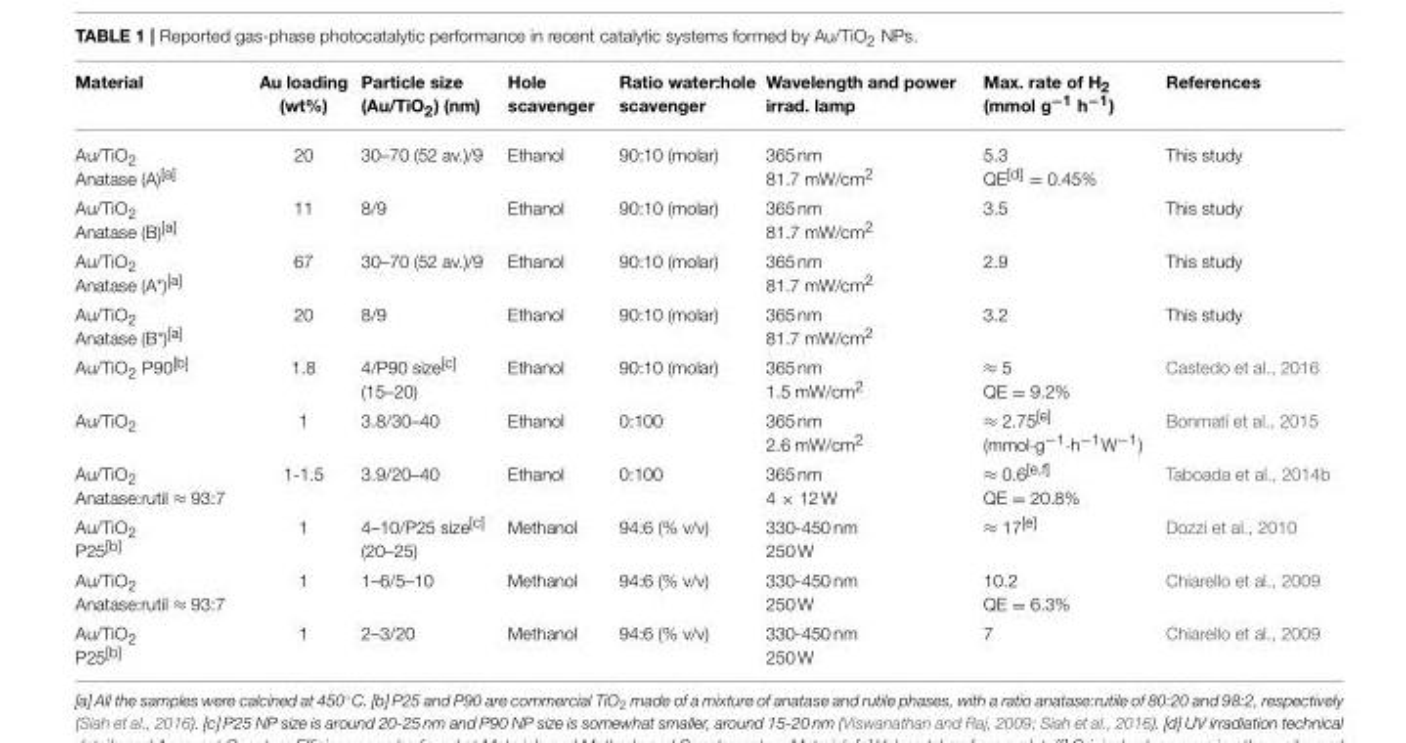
<table><thead><tr><td>Material</td><td>Au loading (wt%)</td><td>Particle size (Au/TiO<sub>2</sub>) (nm)</td><td>Hole scavenger</td><td>Ratio water:hole scavenger</td><td>Wavelength and power irrad. lamp</td><td>Max. rate of H<sub>2</sub> (mmol g<sup>−1</sup> h<sup>−1</sup>)</td><td>References</td></tr></thead><tbody><tr><td>Au/TiO<sub>2</sub> Anatase (A)<sup>[a]</sup></td><td>20</td><td>30–70 (52 av.)/9</td><td>Ethanol</td><td>90:10 (molar)</td><td>365 nm 81.7 mW/cm<sup>2</sup></td><td>5.3 QE<sup>[d]</sup> = 0.45%</td><td>This study</td></tr><tr><td>Au/TiO<sub>2</sub> Anatase (B)<sup>[a]</sup></td><td>11</td><td>8/9</td><td>Ethanol</td><td>90:10 (molar)</td><td>365 nm 81.7 mW/cm<sup>2</sup></td><td>3.5</td><td>This study</td></tr><tr><td>Au/TiO<sub>2</sub> Anatase (A*)<sup>[a]</sup></td><td>67</td><td>30–70 (52 av.)/9</td><td>Ethanol</td><td>90:10 (molar)</td><td>365 nm 81.7 mW/cm<sup>2</sup></td><td>2.9</td><td>This study</td></tr><tr><td>Au/TiO<sub>2</sub> Anatase (B*)<sup>[a]</sup></td><td>20</td><td>8/9</td><td>Ethanol</td><td>90:10 (molar)</td><td>365 nm 81.7 mW/cm<sup>2</sup></td><td>3.2</td><td>This study</td></tr><tr><td>Au/TiO<sub>2</sub> P90<sup>[b]</sup></td><td>1.8</td><td>4/P90 size<sup>[c]</sup> (15–20)</td><td>Ethanol</td><td>90:10 (molar)</td><td>365 nm 1.5 mW/cm<sup>2</sup></td><td>≈ 5 QE = 9.2%</td><td>Castedo et al., 2016</td></tr><tr><td>Au/TiO<sub>2</sub></td><td>1</td><td>3.8/30–40</td><td>Ethanol</td><td>0:100</td><td>365 nm 2.6 mW/cm<sup>2</sup></td><td>≈ 2.75<sup>[e]</sup> (mmol·g<sup>−1</sup>·h<sup>−1</sup>W<sup>−1</sup>)</td><td>Bonmatí et al., 2015</td></tr><tr><td>Au/TiO<sub>2</sub> Anatase:rutil ≈ 93:7</td><td>1-1.5</td><td>3.9/20–40</td><td>Ethanol</td><td>0:100</td><td>365 nm 4 × 12 W</td><td>≈ 0.6<sup>[e,f]</sup> QE = 20.8%</td><td>Taboada et al., 2014b</td></tr><tr><td>Au/TiO<sub>2</sub> P25<sup>[b]</sup></td><td>1</td><td>4–10/P25 size<sup>[c]</sup> (20–25)</td><td>Methanol</td><td>94:6 (% v/v)</td><td>330-450 nm 250 W</td><td>≈ 17<sup>[e]</sup></td><td>Dozzi et al., 2010</td></tr><tr><td>Au/TiO<sub>2</sub> Anatase:rutil ≈ 93:7</td><td>1</td><td>1–6/5–10</td><td>Methanol</td><td>94:6 (% v/v)</td><td>330-450 nm 250 W</td><td>10.2 QE = 6.3%</td><td>Chiarello et al., 2009</td></tr><tr><td>Au/TiO<sub>2</sub> P25<sup>[b]</sup></td><td>1</td><td>2–3/20</td><td>Methanol</td><td>94:6 (% v/v)</td><td>330-450 nm 250 W</td><td>7</td><td>Chiarello et al., 2009</td></tr></tbody></table>